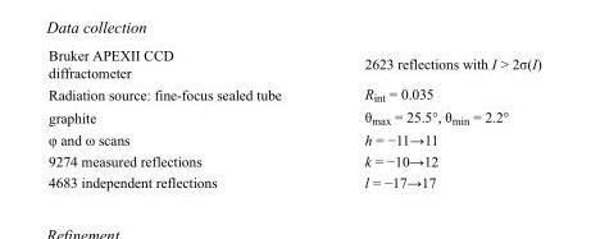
<table><tbody><tr><td>Bruker APEXII CCD diffractometer</td><td>2623 reflections with I &gt; 2σ(I)</td></tr><tr><td>Radiation source: fine-focus sealed tube</td><td>R<sub>int</sub> = 0.035</td></tr><tr><td>graphite</td><td>θ<sub>max</sub> = 25.5°, θ<sub>min</sub> = 2.2°</td></tr><tr><td>φ and ω scans</td><td>h = −11→11</td></tr><tr><td>9274 measured reflections</td><td>k = −10→12</td></tr><tr><td>4683 independent reflections</td><td>l = −17→17</td></tr></tbody></table>